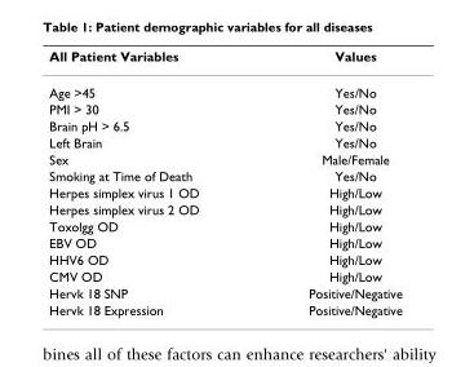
<table><thead><tr><td>All Patient Variables</td><td>Values</td></tr></thead><tbody><tr><td>Age &gt;45</td><td>Yes/No</td></tr><tr><td>PMI &gt; 30</td><td>Yes/No</td></tr><tr><td>Brain pH &gt; 6.5</td><td>Yes/No</td></tr><tr><td>Left Brain</td><td>Yes/No</td></tr><tr><td>Sex</td><td>Male/Female</td></tr><tr><td>Smoking at Time of Death</td><td>Yes/No</td></tr><tr><td>Herpes simplex virus 1 OD</td><td>High/Low</td></tr><tr><td>Herpes simplex virus 2 OD</td><td>High/Low</td></tr><tr><td>Toxolgg OD</td><td>High/Low</td></tr><tr><td>EBV OD</td><td>High/Low</td></tr><tr><td>HHV6 OD</td><td>High/Low</td></tr><tr><td>CMV OD</td><td>High/Low</td></tr><tr><td>Hervk 18 SNP</td><td>Positive/Negative</td></tr><tr><td>Hervk 18 Expression</td><td>Positive/Negative</td></tr></tbody></table>